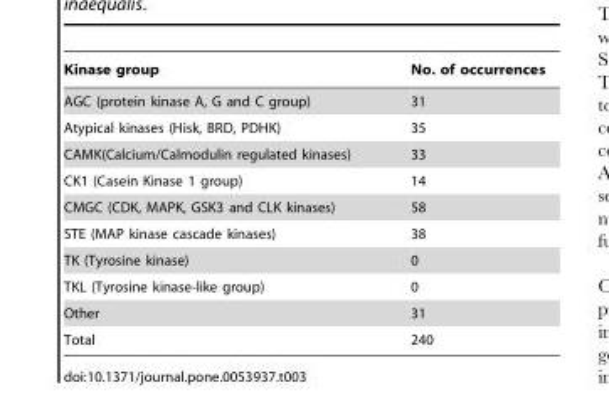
<table><thead><tr><td>Kinase group</td><td>No. of occurrences</td></tr></thead><tbody><tr><td>AGC (protein kinase A, G and C group)</td><td>31</td></tr><tr><td>Atypical kinases (Hisk, BRD, PDHK)</td><td>35</td></tr><tr><td>CAMK(Calcium/Calmodulin regulated kinases)</td><td>33</td></tr><tr><td>CK1 (Casein Kinase 1 group)</td><td>14</td></tr><tr><td>CMGC (CDK, MAPK, GSK3 and CLK kinases)</td><td>58</td></tr><tr><td>STE (MAP kinase cascade kinases)</td><td>38</td></tr><tr><td>TK (Tyrosine kinase)</td><td>0</td></tr><tr><td>TKL (Tyrosine kinase-like group)</td><td>0</td></tr><tr><td>Other</td><td>31</td></tr><tr><td>Total</td><td>240</td></tr></tbody></table>